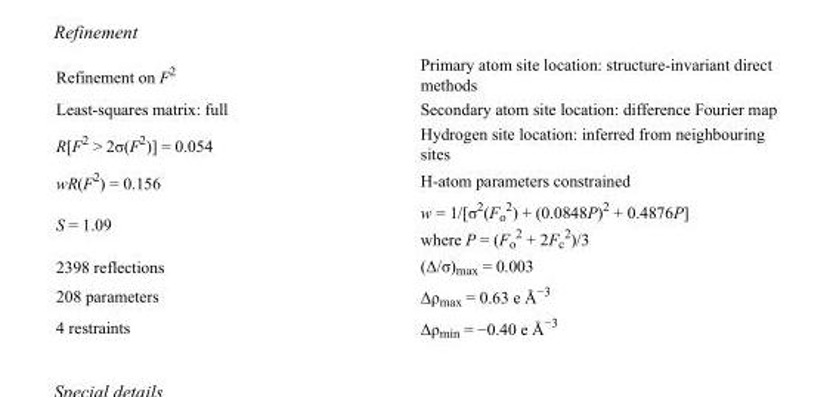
<table><tbody><tr><td>Refinement on F<sup>2</sup></td><td>Primary atom site location: structure-invariant direct methods</td></tr><tr><td>Least-squares matrix: full</td><td>Secondary atom site location: difference Fourier map</td></tr><tr><td>R[F<sup>2</sup> &gt; 2σ(F<sup>2</sup>)] = 0.054</td><td>Hydrogen site location: inferred from neighbouring sites</td></tr><tr><td>wR(F<sup>2</sup>) = 0.156</td><td>H-atom parameters constrained</td></tr><tr><td>S = 1.09</td><td>w = 1/[σ<sup>2</sup>(F<sub>o</sub> <sup>2</sup>) + (0.0848P)<sup>2</sup> + 0.4876P] where P = (F<sub>o</sub> <sup>2</sup> + 2F<sub>c</sub> <sup>2</sup>)/3</td></tr><tr><td>2398 reflections</td><td>(Δ/σ)<sub>max</sub> = 0.003</td></tr><tr><td>208 parameters</td><td>Δρ<sub>max</sub> = 0.63 e Å<sup>−3</sup></td></tr><tr><td>4 restraints</td><td>Δρ<sub>min</sub> = −0.40 e Å<sup>−3</sup></td></tr></tbody></table>